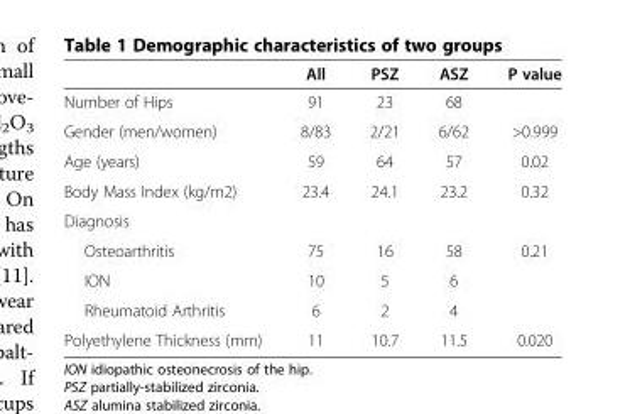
<table><thead><tr><td></td><td>All</td><td>PSZ</td><td>ASZ</td><td>P value</td></tr></thead><tbody><tr><td>Number of Hips</td><td>91</td><td>23</td><td>68</td><td></td></tr><tr><td>Gender (men/women)</td><td>8/83</td><td>2/21</td><td>6/62</td><td>&gt;0.999</td></tr><tr><td>Age (years)</td><td>59</td><td>64</td><td>57</td><td>0.02</td></tr><tr><td>Body Mass Index (kg/m2)</td><td>23.4</td><td>24.1</td><td>23.2</td><td>0.32</td></tr><tr><td colspan="5">Diagnosis</td></tr><tr><td>Osteoarthritis</td><td>75</td><td>16</td><td>58</td><td>0.21</td></tr><tr><td>ION</td><td>10</td><td>5</td><td>6</td><td></td></tr><tr><td>Rheumatoid Arthritis</td><td>6</td><td>2</td><td>4</td><td></td></tr><tr><td>Polyethylene Thickness (mm)</td><td>11</td><td>10.7</td><td>11.5</td><td>0.020</td></tr></tbody></table>